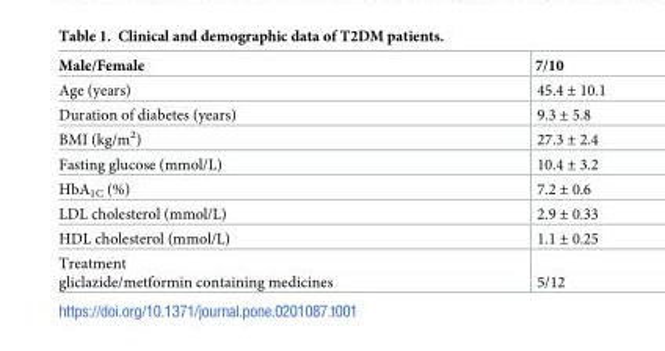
<table><thead><tr><td>Male/Female</td><td>7/10</td></tr></thead><tbody><tr><td>Age (years)</td><td>45.4 ± 10.1</td></tr><tr><td>Duration of diabetes (years)</td><td>9.3 ± 5.8</td></tr><tr><td>BMI (kg/m<sup>2</sup>)</td><td>27.3 ± 2.4</td></tr><tr><td>Fasting glucose (mmol/L)</td><td>10.4 ± 3.2</td></tr><tr><td>HbA<sub>1C</sub> (%)</td><td>7.2 ± 0.6</td></tr><tr><td>LDL cholesterol (mmol/L)</td><td>2.9 ± 0.33</td></tr><tr><td>HDL cholesterol (mmol/L)</td><td>1.1 ± 0.25</td></tr><tr><td>Treatment gliclazide/metformin containing medicines</td><td>5/12</td></tr></tbody></table>